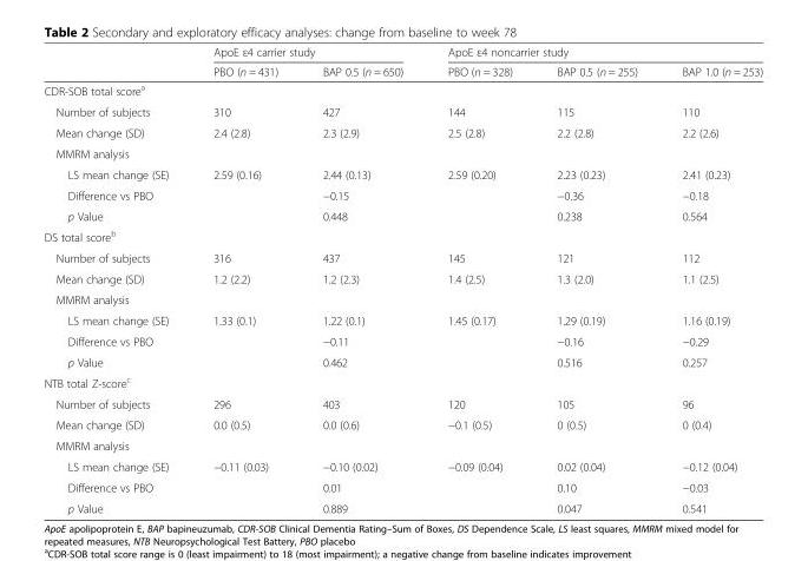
<table><thead><tr><td rowspan="2"></td><td colspan="2">ApoE ε4 carrier study</td><td colspan="3">ApoE ε4 noncarrier study</td></tr><tr><td>PBO (n = 431)</td><td>BAP 0.5 (n = 650)</td><td>PBO (n = 328)</td><td>BAP 0.5 (n = 255)</td><td>BAP 1.0 (n = 253)</td></tr></thead><tbody><tr><td colspan="6">CDR-SOB total score<sup>a</sup></td></tr><tr><td>Number of subjects</td><td>310</td><td>427</td><td>144</td><td>115</td><td>110</td></tr><tr><td>Mean change (SD)</td><td>2.4 (2.8)</td><td>2.3 (2.9)</td><td>2.5 (2.8)</td><td>2.2 (2.8)</td><td>2.2 (2.6)</td></tr><tr><td colspan="6">MMRM analysis</td></tr><tr><td>LS mean change (SE)</td><td>2.59 (0.16)</td><td>2.44 (0.13)</td><td>2.59 (0.20)</td><td>2.23 (0.23)</td><td>2.41 (0.23)</td></tr><tr><td>Difference vs PBO</td><td></td><td>−0.15</td><td></td><td>−0.36</td><td>−0.18</td></tr><tr><td>p Value</td><td></td><td>0.448</td><td></td><td>0.238</td><td>0.564</td></tr><tr><td colspan="6">DS total score<sup>b</sup></td></tr><tr><td>Number of subjects</td><td>316</td><td>437</td><td>145</td><td>121</td><td>112</td></tr><tr><td>Mean change (SD)</td><td>1.2 (2.2)</td><td>1.2 (2.3)</td><td>1.4 (2.5)</td><td>1.3 (2.0)</td><td>1.1 (2.5)</td></tr><tr><td colspan="6">MMRM analysis</td></tr><tr><td>LS mean change (SE)</td><td>1.33 (0.1)</td><td>1.22 (0.1)</td><td>1.45 (0.17)</td><td>1.29 (0.19)</td><td>1.16 (0.19)</td></tr><tr><td>Difference vs PBO</td><td></td><td>−0.11</td><td></td><td>−0.16</td><td>−0.29</td></tr><tr><td>p Value</td><td></td><td>0.462</td><td></td><td>0.516</td><td>0.257</td></tr><tr><td colspan="6">NTB total Z-score<sup>c</sup></td></tr><tr><td>Number of subjects</td><td>296</td><td>403</td><td>120</td><td>105</td><td>96</td></tr><tr><td>Mean change (SD)</td><td>0.0 (0.5)</td><td>0.0 (0.6)</td><td>−0.1 (0.5)</td><td>0 (0.5)</td><td>0 (0.4)</td></tr><tr><td colspan="6">MMRM analysis</td></tr><tr><td>LS mean change (SE)</td><td>−0.11 (0.03)</td><td>−0.10 (0.02)</td><td>−0.09 (0.04)</td><td>0.02 (0.04)</td><td>−0.12 (0.04)</td></tr><tr><td>Difference vs PBO</td><td></td><td>0.01</td><td></td><td>0.10</td><td>−0.03</td></tr><tr><td>p Value</td><td></td><td>0.889</td><td></td><td>0.047</td><td>0.541</td></tr></tbody></table>